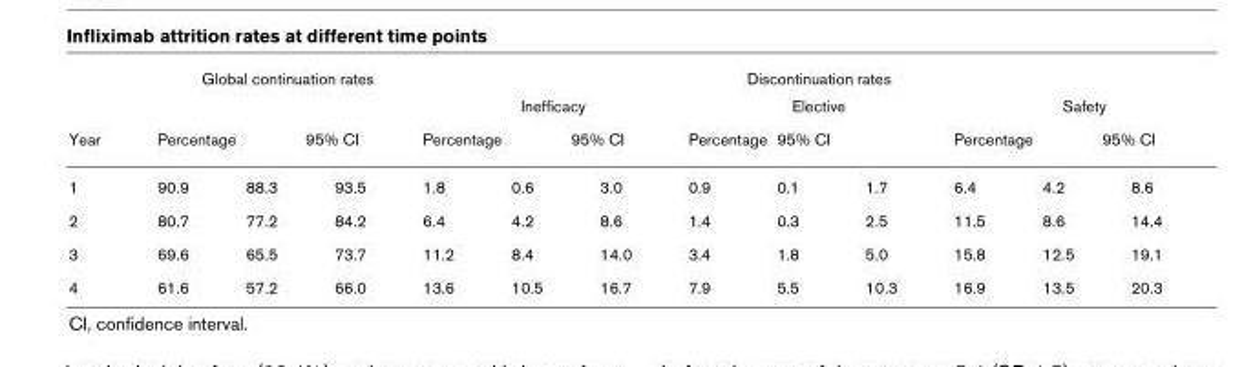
<table><thead><tr><td rowspan="4">Year 1</td><td colspan="3">Global continuation rates</td><td colspan="9">Discontinuation rates</td></tr><tr><td rowspan="3">Percentage 90.9</td><td></td><td></td><td colspan="3">Inefficacy</td><td colspan="3">Elective</td><td colspan="3">Safety</td></tr><tr><td colspan="2">95% CI</td><td rowspan="2">Percentage 1.8</td><td colspan="2">95% CI</td><td rowspan="2">Percentage 0.9</td><td colspan="2">95% CI</td><td rowspan="2">Percentage 6.4</td><td colspan="2">95% CI</td></tr><tr><td>88.3</td><td>93.5</td><td>0.6</td><td>3.0</td><td>0.1</td><td>1.7</td><td>4.2</td><td>8.6</td></tr></thead><tbody><tr><td>2</td><td>80.7</td><td>77.2</td><td>84.2</td><td>6.4</td><td>4.2</td><td>8.6</td><td>1.4</td><td>0.3</td><td>2.5</td><td>11.5</td><td>8.6</td><td>14.4</td></tr><tr><td>3</td><td>69.6</td><td>65.5</td><td>73.7</td><td>11.2</td><td>8.4</td><td>14.0</td><td>3.4</td><td>1.8</td><td>5.0</td><td>15.8</td><td>12.5</td><td>19.1</td></tr><tr><td>4</td><td>61.6</td><td>57.2</td><td>66.0</td><td>13.6</td><td>10.5</td><td>16.7</td><td>7.9</td><td>5.5</td><td>10.3</td><td>16.9</td><td>13.5</td><td>20.3</td></tr></tbody></table>